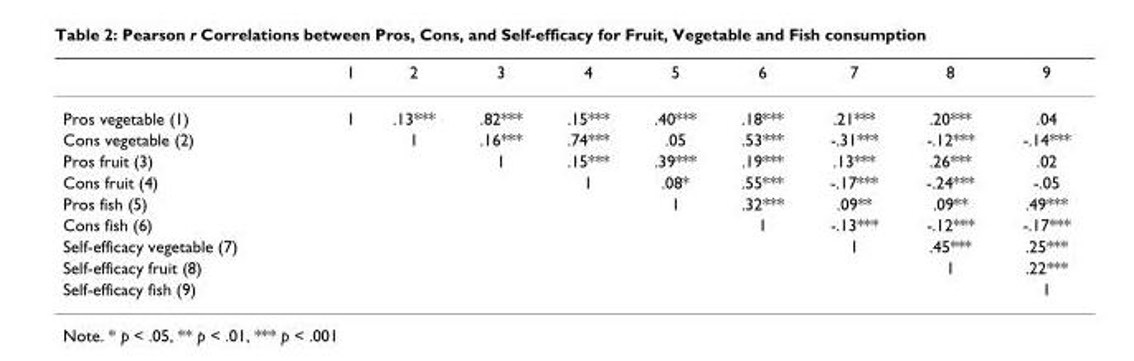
<table><thead><tr><td></td><td>1</td><td>2</td><td>3</td><td>4</td><td>5</td><td>6</td><td>7</td><td>8</td><td>9</td></tr></thead><tbody><tr><td>Pros vegetable (1)</td><td>1</td><td>.13***</td><td>.82***</td><td>.15***</td><td>.40***</td><td>.18***</td><td>.21***</td><td>.20***</td><td>.04</td></tr><tr><td>Cons vegetable (2)</td><td></td><td>1</td><td>.16***</td><td>.74***</td><td>.05</td><td>.53***</td><td>-.31***</td><td>-.12***</td><td>-.14***</td></tr><tr><td>Pros fruit (3)</td><td></td><td></td><td>1</td><td>.15***</td><td>.39***</td><td>.19***</td><td>.13***</td><td>.26***</td><td>.02</td></tr><tr><td>Cons fruit (4)</td><td></td><td></td><td></td><td>1</td><td>.08*</td><td>.55***</td><td>-.17***</td><td>-.24***</td><td>-.05</td></tr><tr><td>Pros fish (5)</td><td></td><td></td><td></td><td></td><td>1</td><td>.32***</td><td>.09**</td><td>.09**</td><td>.49***</td></tr><tr><td>Cons fish (6)</td><td></td><td></td><td></td><td></td><td></td><td>1</td><td>-.13***</td><td>-.12***</td><td>-.17***</td></tr><tr><td>Self-efficacy vegetable (7)</td><td></td><td></td><td></td><td></td><td></td><td></td><td>1</td><td>.45***</td><td>.25***</td></tr><tr><td>Self-efficacy fruit (8)</td><td></td><td></td><td></td><td></td><td></td><td></td><td></td><td>1</td><td>.22***</td></tr><tr><td>Self-efficacy fish (9)</td><td></td><td></td><td></td><td></td><td></td><td></td><td></td><td></td><td>1</td></tr></tbody></table>